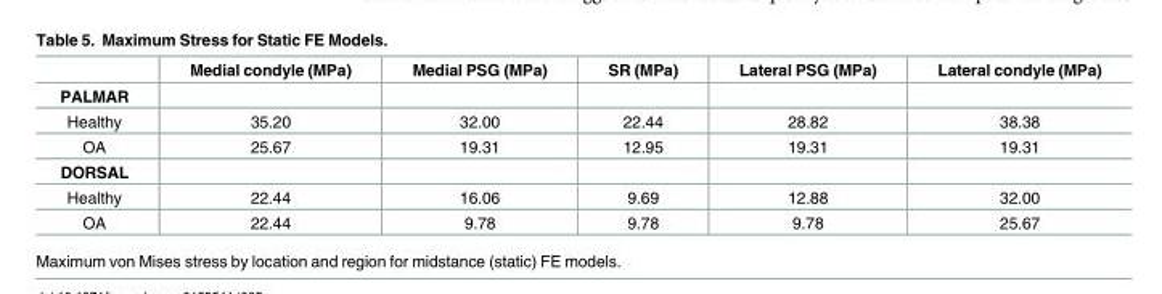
<table><thead><tr><td></td><td>Medial condyle (MPa)</td><td>Medial PSG (MPa)</td><td>SR (MPa)</td><td>Lateral PSG (MPa)</td><td>Lateral condyle (MPa)</td></tr></thead><tbody><tr><td colspan="6">PALMAR</td></tr><tr><td>Healthy</td><td>35.20</td><td>32.00</td><td>22.44</td><td>28.82</td><td>38.38</td></tr><tr><td>OA</td><td>25.67</td><td>19.31</td><td>12.95</td><td>19.31</td><td>19.31</td></tr><tr><td colspan="6">DORSAL</td></tr><tr><td>Healthy</td><td>22.44</td><td>16.06</td><td>9.69</td><td>12.88</td><td>32.00</td></tr><tr><td>OA</td><td>22.44</td><td>9.78</td><td>9.78</td><td>9.78</td><td>25.67</td></tr></tbody></table>